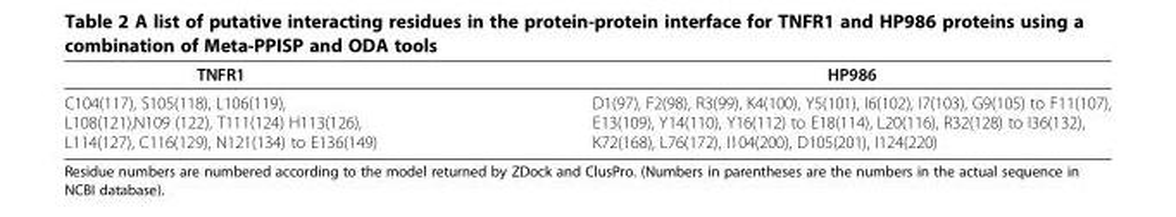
<table><thead><tr><td>TNFR1</td><td>HP986</td></tr></thead><tbody><tr><td>C104(117), S105(118), L106(119), L108(121),N109 (122), T111(124) H113(126), L114(127), C116(129), N121(134) to E136(149)</td><td>D1(97), F2(98), R3(99), K4(100), Y5(101), I6(102), I7(103), G9(105) to F11(107), E13(109), Y14(110), Y16(112) to E18(114), L20(116), R32(128) to I36(132), K72(168), L76(172), I104(200), D105(201), I124(220)</td></tr></tbody></table>